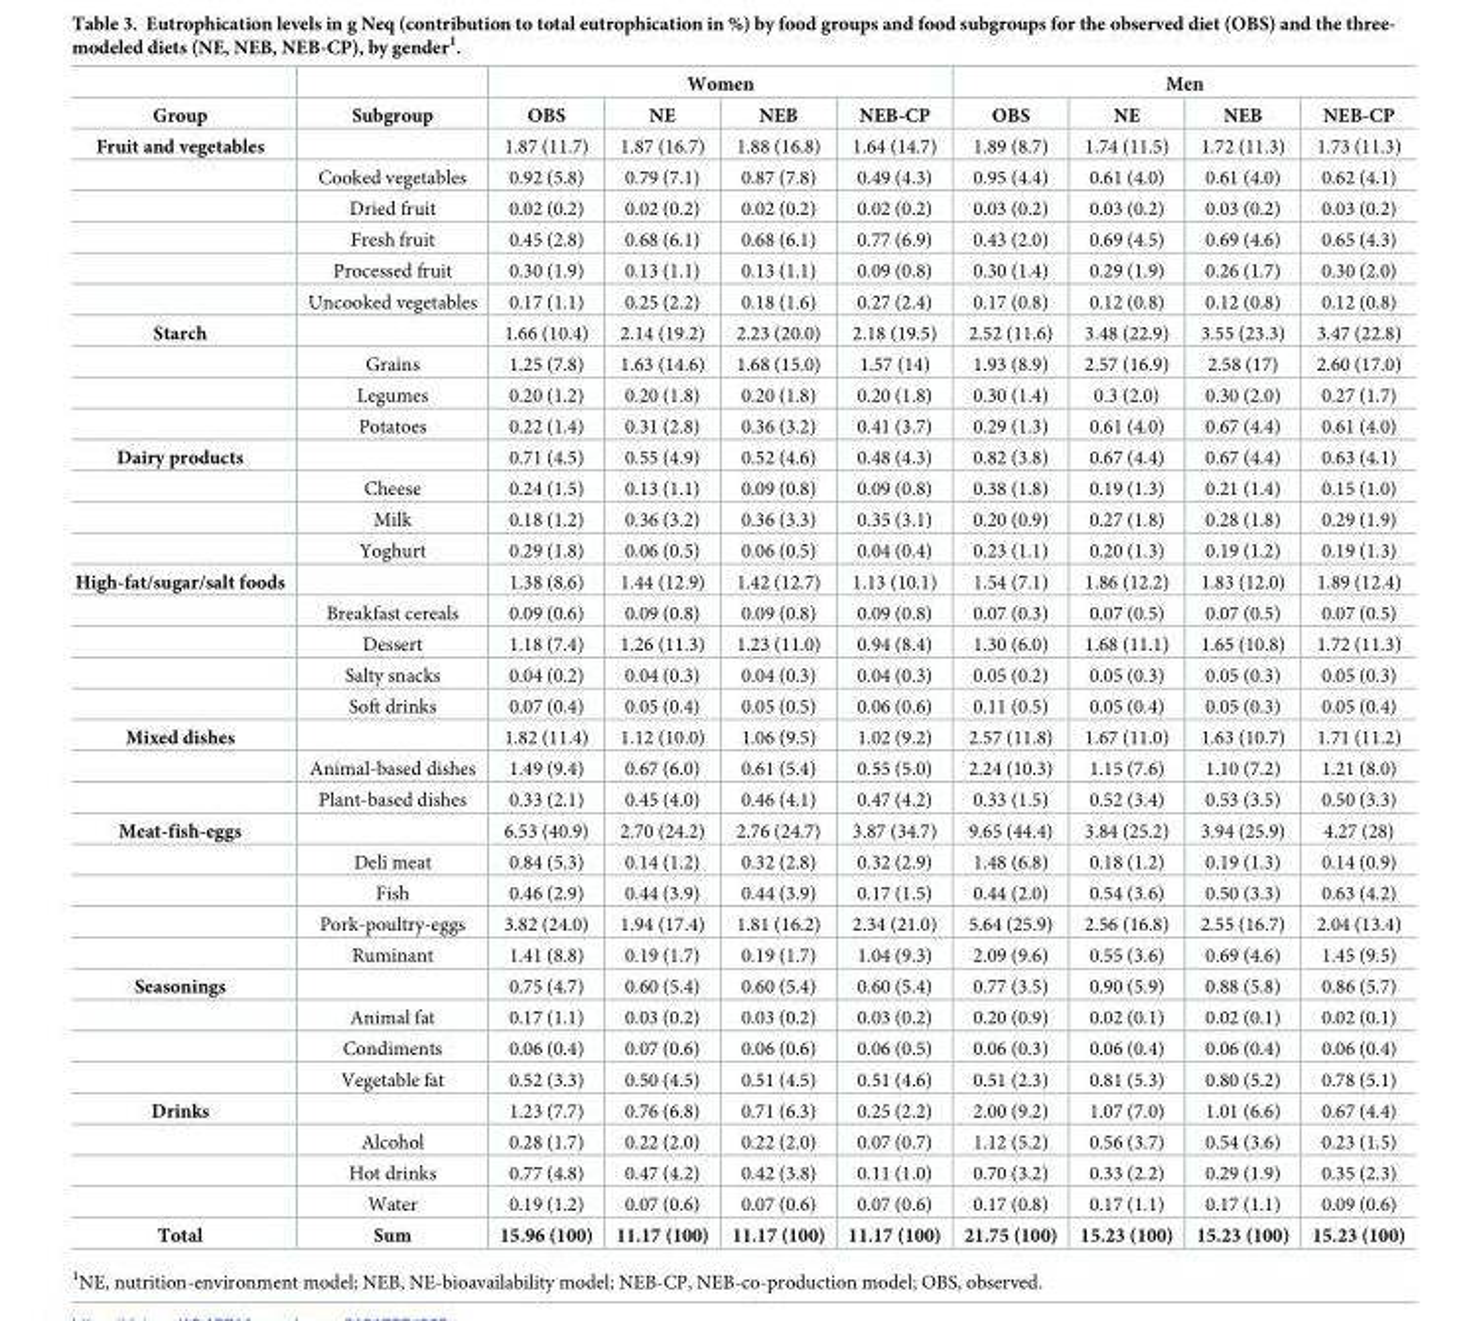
<table><thead><tr><td rowspan="2">Group</td><td rowspan="2">Subgroup</td><td colspan="4">Women</td><td colspan="4">Men</td></tr><tr><td>OBS</td><td>NE</td><td>NEB</td><td>NEB-CP</td><td>OBS</td><td>NE</td><td>NEB</td><td>NEB-CP</td></tr></thead><tbody><tr><td rowspan="6">Fruit and vegetables</td><td></td><td>1.87 (11.7)</td><td>1.87 (16.7)</td><td>1.88 (16.8)</td><td>1.64 (14.7)</td><td>1.89 (8.7)</td><td>1.74 (11.5)</td><td>1.72 (11.3)</td><td>1.73 (11.3)</td></tr><tr><td>Cooked vegetables</td><td>0.92 (5.8)</td><td>0.79 (7.1)</td><td>0.87 (7.8)</td><td>0.49 (4.3)</td><td>0.95 (4.4)</td><td>0.61 (4.0)</td><td>0.61 (4.0)</td><td>0.62 (4.1)</td></tr><tr><td>Dried fruit</td><td>0.02 (0.2)</td><td>0.02 (0.2)</td><td>0.02 (0.2)</td><td>0.02 (0.2)</td><td>0.03 (0.2)</td><td>0.03 (0.2)</td><td>0.03 (0.2)</td><td>0.03 (0.2)</td></tr><tr><td>Fresh fruit</td><td>0.45 (2.8)</td><td>0.68 (6.1)</td><td>0.68 (6.1)</td><td>0.77 (6.9)</td><td>0.43 (2.0)</td><td>0.69 (4.5)</td><td>0.69 (4.6)</td><td>0.65 (4.3)</td></tr><tr><td>Processed fruit</td><td>0.30 (1.9)</td><td>0.13 (1.1)</td><td>0.13 (1.1)</td><td>0.09 (0.8)</td><td>0.30 (1.4)</td><td>0.29 (1.9)</td><td>0.26 (1.7)</td><td>0.30 (2.0)</td></tr><tr><td>Uncooked vegetables</td><td>0.17 (1.1)</td><td>0.25 (2.2)</td><td>0.18 (1.6)</td><td>0.27 (2.4)</td><td>0.17 (0.8)</td><td>0.12 (0.8)</td><td>0.12 (0.8)</td><td>0.12 (0.8)</td></tr><tr><td rowspan="4">Starch</td><td></td><td>1.66 (10.4)</td><td>2.14 (19.2)</td><td>2.23 (20.0)</td><td>2.18 (19.5)</td><td>2.52 (11.6)</td><td>3.48 (22.9)</td><td>3.55 (23.3)</td><td>3.47 (22.8)</td></tr><tr><td>Grains</td><td>1.25 (7.8)</td><td>1.63 (14.6)</td><td>1.68 (15.0)</td><td>1.57 (14)</td><td>1.93 (8.9)</td><td>2.57 (16.9)</td><td>2.58 (17)</td><td>2.60 (17.0)</td></tr><tr><td>Legumes</td><td>0.20 (1.2)</td><td>0.20 (1.8)</td><td>0.20 (1.8)</td><td>0.20 (1.8)</td><td>0.30 (1.4)</td><td>0.3 (2.0)</td><td>0.30 (2.0)</td><td>0.27 (1.7)</td></tr><tr><td>Potatoes</td><td>0.22 (1.4)</td><td>0.31 (2.8)</td><td>0.36 (3.2)</td><td>0.41 (3.7)</td><td>0.29 (1.3)</td><td>0.61 (4.0)</td><td>0.67 (4.4)</td><td>0.61 (4.0)</td></tr><tr><td rowspan="4">Dairy products</td><td></td><td>0.71 (4.5)</td><td>0.55 (4.9)</td><td>0.52 (4.6)</td><td>0.48 (4.3)</td><td>0.82 (3.8)</td><td>0.67 (4.4)</td><td>0.67 (4.4)</td><td>0.63 (4.1)</td></tr><tr><td>Cheese</td><td>0.24 (1.5)</td><td>0.13 (1.1)</td><td>0.09 (0.8)</td><td>0.09 (0.8)</td><td>0.38 (1.8)</td><td>0.19 (1.3)</td><td>0.21 (1.4)</td><td>0.15 (1.0)</td></tr><tr><td>Milk</td><td>0.18 (1.2)</td><td>0.36 (3.2)</td><td>0.36 (3.3)</td><td>0.35 (3.1)</td><td>0.20 (0.9)</td><td>0.27 (1.8)</td><td>0.28 (1.8)</td><td>0.29 (1.9)</td></tr><tr><td>Yoghurt</td><td>0.29 (1.8)</td><td>0.06 (0.5)</td><td>0.06 (0.5)</td><td>0.04 (0.4)</td><td>0.23 (1.1)</td><td>0.20 (1.3)</td><td>0.19 (1.2)</td><td>0.19 (1.3)</td></tr><tr><td rowspan="5">High-fat/sugar/salt foods</td><td></td><td>1.38 (8.6)</td><td>1.44 (12.9)</td><td>1.42 (12.7)</td><td>1.13 (10.1)</td><td>1.54 (7.1)</td><td>1.86 (12.2)</td><td>1.83 (12.0)</td><td>1.89 (12.4)</td></tr><tr><td>Breakfast cereals</td><td>0.09 (0.6)</td><td>0.09 (0.8)</td><td>0.09 (0.8)</td><td>0.09 (0.8)</td><td>0.07 (0.3)</td><td>0.07 (0.5)</td><td>0.07 (0.5)</td><td>0.07 (0.5)</td></tr><tr><td>Dessert</td><td>1.18 (7.4)</td><td>1.26 (11.3)</td><td>1.23 (11.0)</td><td>0.94 (8.4)</td><td>1.30 (6.0)</td><td>1.68 (11.1)</td><td>1.65 (10.8)</td><td>1.72 (11.3)</td></tr><tr><td>Salty snacks</td><td>0.04 (0.2)</td><td>0.04 (0.3)</td><td>0.04 (0.3)</td><td>0.04 (0.3)</td><td>0.05 (0.2)</td><td>0.05 (0.3)</td><td>0.05 (0.3)</td><td>0.05 (0.3)</td></tr><tr><td>Soft drinks</td><td>0.07 (0.4)</td><td>0.05 (0.4)</td><td>0.05 (0.5)</td><td>0.06 (0.6)</td><td>0.11 (0.5)</td><td>0.05 (0.4)</td><td>0.05 (0.3)</td><td>0.05 (0.4)</td></tr><tr><td rowspan="3">Mixed dishes</td><td></td><td>1.82 (11.4)</td><td>1.12 (10.0)</td><td>1.06 (9.5)</td><td>1.02 (9.2)</td><td>2.57 (11.8)</td><td>1.67 (11.0)</td><td>1.63 (10.7)</td><td>1.71 (11.2)</td></tr><tr><td>Animal-based dishes</td><td>1.49 (9.4)</td><td>0.67 (6.0)</td><td>0.61 (5.4)</td><td>0.55 (5.0)</td><td>2.24 (10.3)</td><td>1.15 (7.6)</td><td>1.10 (7.2)</td><td>1.21 (8.0)</td></tr><tr><td>Plant-based dishes</td><td>0.33 (2.1)</td><td>0.45 (4.0)</td><td>0.46 (4.1)</td><td>0.47 (4.2)</td><td>0.33 (1.5)</td><td>0.52 (3.4)</td><td>0.53 (3.5)</td><td>0.50 (3.3)</td></tr><tr><td rowspan="5">Meat-fish-eggs</td><td></td><td>6.53 (40.9)</td><td>2.70 (24.2)</td><td>2.76 (24.7)</td><td>3.87 (34.7)</td><td>9.65 (44.4)</td><td>3.84 (25.2)</td><td>3.94 (25.9)</td><td>4.27 (28)</td></tr><tr><td>Deli meat</td><td>0.84 (5.3)</td><td>0.14 (1.2)</td><td>0.32 (2.8)</td><td>0.32 (2.9)</td><td>1.48 (6.8)</td><td>0.18 (1.2)</td><td>0.19 (1.3)</td><td>0.14 (0.9)</td></tr><tr><td>Fish</td><td>0.46 (2.9)</td><td>0.44 (3.9)</td><td>0.44 (3.9)</td><td>0.17 (1.5)</td><td>0.44 (2.0)</td><td>0.54 (3.6)</td><td>0.50 (3.3)</td><td>0.63 (4.2)</td></tr><tr><td>Pork-poultry-eggs</td><td>3.82 (24.0)</td><td>1.94 (17.4)</td><td>1.81 (16.2)</td><td>2.34 (21.0)</td><td>5.64 (25.9)</td><td>2.56 (16.8)</td><td>2.55 (16.7)</td><td>2.04 (13.4)</td></tr><tr><td>Ruminant</td><td>1.41 (8.8)</td><td>0.19 (1.7)</td><td>0.19 (1.7)</td><td>1.04 (9.3)</td><td>2.09 (9.6)</td><td>0.55 (3.6)</td><td>0.69 (4.6)</td><td>1.45 (9.5)</td></tr><tr><td rowspan="4">Seasonings</td><td></td><td>0.75 (4.7)</td><td>0.60 (5.4)</td><td>0.60 (5.4)</td><td>0.60 (5.4)</td><td>0.77 (3.5)</td><td>0.90 (5.9)</td><td>0.88 (5.8)</td><td>0.86 (5.7)</td></tr><tr><td>Animal fat</td><td>0.17 (1.1)</td><td>0.03 (0.2)</td><td>0.03 (0.2)</td><td>0.03 (0.2)</td><td>0.20 (0.9)</td><td>0.02 (0.1)</td><td>0.02 (0.1)</td><td>0.02 (0.1)</td></tr><tr><td>Condiments</td><td>0.06 (0.4)</td><td>0.07 (0.6)</td><td>0.06 (0.6)</td><td>0.06 (0.5)</td><td>0.06 (0.3)</td><td>0.06 (0.4)</td><td>0.06 (0.4)</td><td>0.06 (0.4)</td></tr><tr><td>Vegetable fat</td><td>0.52 (3.3)</td><td>0.50 (4.5)</td><td>0.51 (4.5)</td><td>0.51 (4.6)</td><td>0.51 (2.3)</td><td>0.81 (5.3)</td><td>0.80 (5.2)</td><td>0.78 (5.1)</td></tr><tr><td rowspan="4">Drinks</td><td></td><td>1.23 (7.7)</td><td>0.76 (6.8)</td><td>0.71 (6.3)</td><td>0.25 (2.2)</td><td>2.00 (9.2)</td><td>1.07 (7.0)</td><td>1.01 (6.6)</td><td>0.67 (4.4)</td></tr><tr><td>Alcohol</td><td>0.28 (1.7)</td><td>0.22 (2.0)</td><td>0.22 (2.0)</td><td>0.07 (0.7)</td><td>1.12 (5.2)</td><td>0.56 (3.7)</td><td>0.54 (3.6)</td><td>0.23 (1.5)</td></tr><tr><td>Hot drinks</td><td>0.77 (4.8)</td><td>0.47 (4.2)</td><td>0.42 (3.8)</td><td>0.11 (1.0)</td><td>0.70 (3.2)</td><td>0.33 (2.2)</td><td>0.29 (1.9)</td><td>0.35 (2.3)</td></tr><tr><td>Water</td><td>0.19 (1.2)</td><td>0.07 (0.6)</td><td>0.07 (0.6)</td><td>0.07 (0.6)</td><td>0.17 (0.8)</td><td>0.17 (1.1)</td><td>0.17 (1.1)</td><td>0.09 (0.6)</td></tr><tr><td>Total</td><td>Sum</td><td>15.96 (100)</td><td>11.17 (100)</td><td>11.17 (100)</td><td>11.17 (100)</td><td>21.75 (100)</td><td>15.23 (100)</td><td>15.23 (100)</td><td>15.23 (100)</td></tr></tbody></table>